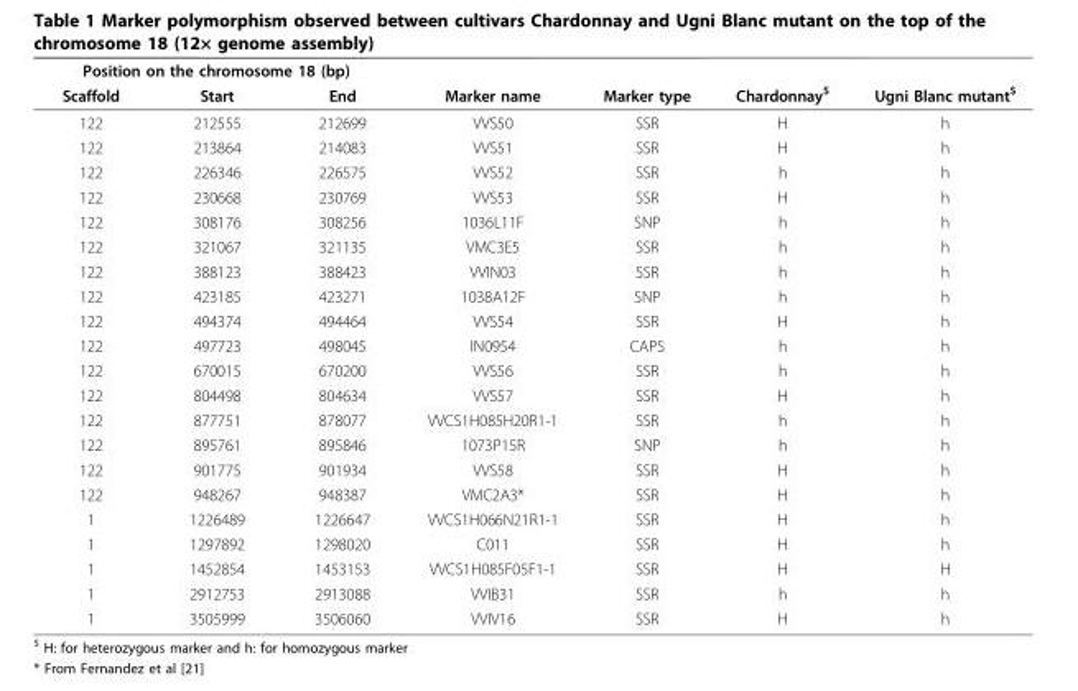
<table><thead><tr><td colspan="3">Position on the chromosome 18 (bp)</td><td rowspan="2">Marker name</td><td rowspan="2">Marker type</td><td rowspan="2">Chardonnay<sup>$</sup></td><td rowspan="2">Ugni Blanc mutant<sup>$</sup></td></tr><tr><td>Scaffold</td><td>Start</td><td>End</td></tr></thead><tbody><tr><td>122</td><td>212555</td><td>212699</td><td>VVS50</td><td>SSR</td><td>H</td><td>h</td></tr><tr><td>122</td><td>213864</td><td>214083</td><td>VVS51</td><td>SSR</td><td>H</td><td>h</td></tr><tr><td>122</td><td>226346</td><td>226575</td><td>VVS52</td><td>SSR</td><td>h</td><td>h</td></tr><tr><td>122</td><td>230668</td><td>230769</td><td>VVS53</td><td>SSR</td><td>H</td><td>h</td></tr><tr><td>122</td><td>308176</td><td>308256</td><td>1036L11F</td><td>SNP</td><td>h</td><td>h</td></tr><tr><td>122</td><td>321067</td><td>321135</td><td>VMC3E5</td><td>SSR</td><td>h</td><td>h</td></tr><tr><td>122</td><td>388123</td><td>388423</td><td>VVIN03</td><td>SSR</td><td>h</td><td>h</td></tr><tr><td>122</td><td>423185</td><td>423271</td><td>1038A12F</td><td>SNP</td><td>h</td><td>h</td></tr><tr><td>122</td><td>494374</td><td>494464</td><td>VVS54</td><td>SSR</td><td>H</td><td>h</td></tr><tr><td>122</td><td>497723</td><td>498045</td><td>IN0954</td><td>CAPS</td><td>h</td><td>h</td></tr><tr><td>122</td><td>670015</td><td>670200</td><td>VVS56</td><td>SSR</td><td>h</td><td>h</td></tr><tr><td>122</td><td>804498</td><td>804634</td><td>VVS57</td><td>SSR</td><td>H</td><td>h</td></tr><tr><td>122</td><td>877751</td><td>878077</td><td>VVCS1H085H20R1-1</td><td>SSR</td><td>h</td><td>h</td></tr><tr><td>122</td><td>895761</td><td>895846</td><td>1073P15R</td><td>SNP</td><td>h</td><td>h</td></tr><tr><td>122</td><td>901775</td><td>901934</td><td>VVS58</td><td>SSR</td><td>H</td><td>h</td></tr><tr><td>122</td><td>948267</td><td>948387</td><td>VMC2A3*</td><td>SSR</td><td>H</td><td>h</td></tr><tr><td>1</td><td>1226489</td><td>1226647</td><td>VVCS1H066N21R1-1</td><td>SSR</td><td>H</td><td>h</td></tr><tr><td>1</td><td>1297892</td><td>1298020</td><td>C011</td><td>SSR</td><td>H</td><td>h</td></tr><tr><td>1</td><td>1452854</td><td>1453153</td><td>VVCS1H085F05F1-1</td><td>SSR</td><td>H</td><td>H</td></tr><tr><td>1</td><td>2912753</td><td>2913088</td><td>VVIB31</td><td>SSR</td><td>h</td><td>h</td></tr><tr><td>1</td><td>3505999</td><td>3506060</td><td>VVIV16</td><td>SSR</td><td>H</td><td>h</td></tr></tbody></table>